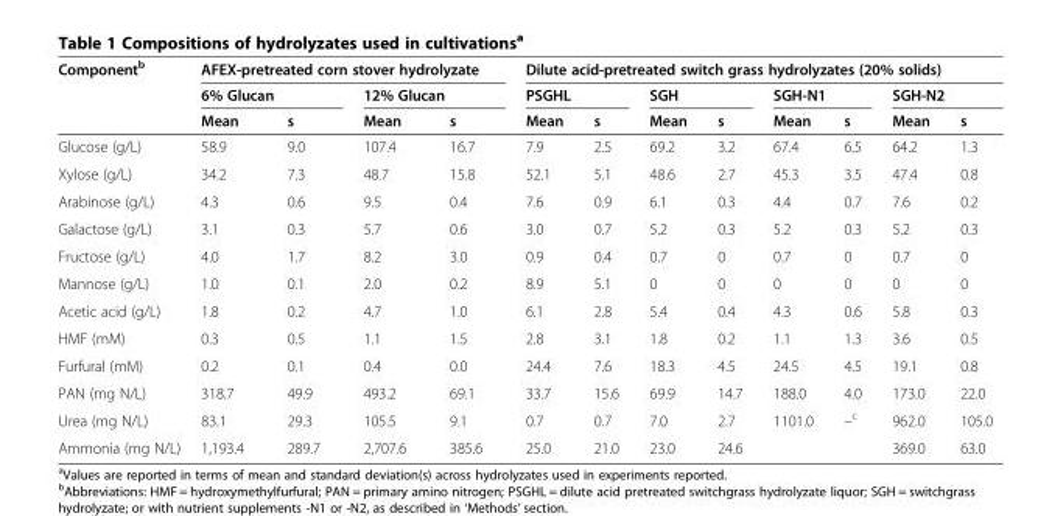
<table><thead><tr><td rowspan="3">Component<sup>b</sup></td><td colspan="4">AFEX-pretreated corn stover hydrolyzate</td><td colspan="8">Dilute acid-pretreated switch grass hydrolyzates (20% solids)</td></tr><tr><td colspan="2">6% Glucan</td><td colspan="2">12% Glucan</td><td colspan="2">PSGHL</td><td colspan="2">SGH</td><td colspan="2">SGH-N1</td><td colspan="2">SGH-N2</td></tr><tr><td>Mean</td><td>s</td><td>Mean</td><td>s</td><td>Mean</td><td>s</td><td>Mean</td><td>s</td><td>Mean</td><td>s</td><td>Mean</td><td>s</td></tr></thead><tbody><tr><td>Glucose (g/L)</td><td>58.9</td><td>9.0</td><td>107.4</td><td>16.7</td><td>7.9</td><td>2.5</td><td>69.2</td><td>3.2</td><td>67.4</td><td>6.5</td><td>64.2</td><td>1.3</td></tr><tr><td>Xylose (g/L)</td><td>34.2</td><td>7.3</td><td>48.7</td><td>15.8</td><td>52.1</td><td>5.1</td><td>48.6</td><td>2.7</td><td>45.3</td><td>3.5</td><td>47.4</td><td>0.8</td></tr><tr><td>Arabinose (g/L)</td><td>4.3</td><td>0.6</td><td>9.5</td><td>0.4</td><td>7.6</td><td>0.9</td><td>6.1</td><td>0.3</td><td>4.4</td><td>0.7</td><td>7.6</td><td>0.2</td></tr><tr><td>Galactose (g/L)</td><td>3.1</td><td>0.3</td><td>5.7</td><td>0.6</td><td>3.0</td><td>0.7</td><td>5.2</td><td>0.3</td><td>5.2</td><td>0.3</td><td>5.2</td><td>0.3</td></tr><tr><td>Fructose (g/L)</td><td>4.0</td><td>1.7</td><td>8.2</td><td>3.0</td><td>0.9</td><td>0.4</td><td>0.7</td><td>0</td><td>0.7</td><td>0</td><td>0.7</td><td>0</td></tr><tr><td>Mannose (g/L)</td><td>1.0</td><td>0.1</td><td>2.0</td><td>0.2</td><td>8.9</td><td>5.1</td><td>0</td><td>0</td><td>0</td><td>0</td><td>0</td><td>0</td></tr><tr><td>Acetic acid (g/L)</td><td>1.8</td><td>0.2</td><td>4.7</td><td>1.0</td><td>6.1</td><td>2.8</td><td>5.4</td><td>0.4</td><td>4.3</td><td>0.6</td><td>5.8</td><td>0.3</td></tr><tr><td>HMF (mM)</td><td>0.3</td><td>0.5</td><td>1.1</td><td>1.5</td><td>2.8</td><td>3.1</td><td>1.8</td><td>0.2</td><td>1.1</td><td>1.3</td><td>3.6</td><td>0.5</td></tr><tr><td>Furfural (mM)</td><td>0.2</td><td>0.1</td><td>0.4</td><td>0.0</td><td>24.4</td><td>7.6</td><td>18.3</td><td>4.5</td><td>24.5</td><td>4.5</td><td>19.1</td><td>0.8</td></tr><tr><td>PAN (mg N/L)</td><td>318.7</td><td>49.9</td><td>493.2</td><td>69.1</td><td>33.7</td><td>15.6</td><td>69.9</td><td>14.7</td><td>188.0</td><td>4.0</td><td>173.0</td><td>22.0</td></tr><tr><td>Urea (mg N/L)</td><td>83.1</td><td>29.3</td><td>105.5</td><td>9.1</td><td>0.7</td><td>0.7</td><td>7.0</td><td>2.7</td><td>1101.0</td><td>–c</td><td>962.0</td><td>105.0</td></tr><tr><td>Ammonia (mg N/L)</td><td>1,193.4</td><td>289.7</td><td>2,707.6</td><td>385.6</td><td>25.0</td><td>21.0</td><td>23.0</td><td>24.6</td><td></td><td></td><td>369.0</td><td>63.0</td></tr></tbody></table>